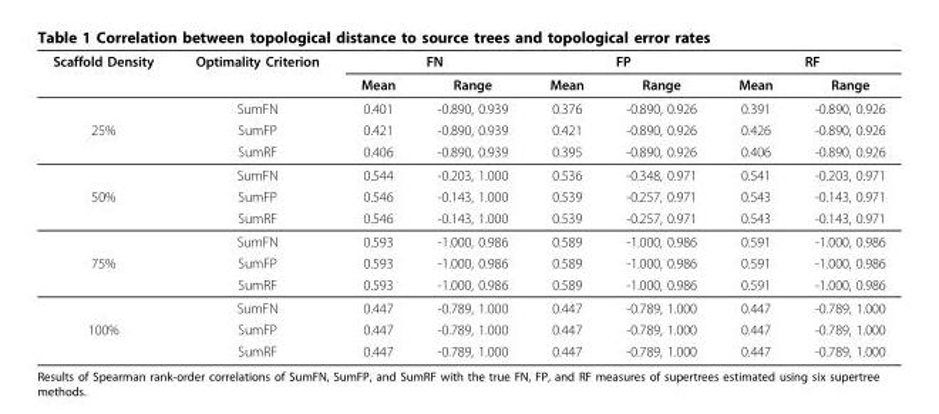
<table><thead><tr><td rowspan="2">Scaffold Density</td><td rowspan="2">Optimality Criterion</td><td colspan="2">FN</td><td colspan="2">FP</td><td colspan="2">RF</td></tr><tr><td>Mean</td><td>Range</td><td>Mean</td><td>Range</td><td>Mean</td><td>Range</td></tr></thead><tbody><tr><td></td><td>SumFN</td><td>0.401</td><td>-0.890, 0.939</td><td>0.376</td><td>-0.890, 0.926</td><td>0.391</td><td>-0.890, 0.926</td></tr><tr><td rowspan="3">25%</td><td>SumFP</td><td>0.421</td><td>-0.890, 0.939</td><td>0.421</td><td>-0.890, 0.926</td><td>0.426</td><td>-0.890, 0.926</td></tr><tr><td>SumRF</td><td>0.406</td><td>-0.890, 0.939</td><td>0.395</td><td>-0.890, 0.926</td><td>0.406</td><td>-0.890, 0.926</td></tr><tr><td>SumFN</td><td>0.544</td><td>-0.203, 1.000</td><td>0.536</td><td>-0.348, 0.971</td><td>0.541</td><td>-0.203, 0.971</td></tr><tr><td rowspan="3">50%</td><td>SumFP</td><td>0.546</td><td>-0.143, 1.000</td><td>0.539</td><td>-0.257, 0.971</td><td>0.543</td><td>-0.143, 0.971</td></tr><tr><td>SumRF</td><td>0.546</td><td>-0.143, 1.000</td><td>0.539</td><td>-0.257, 0.971</td><td>0.543</td><td>-0.143, 0.971</td></tr><tr><td>SumFN</td><td>0.593</td><td>-1.000, 0.986</td><td>0.589</td><td>-1.000, 0.986</td><td>0.591</td><td>-1.000, 0.986</td></tr><tr><td rowspan="3">75%</td><td>SumFP</td><td>0.593</td><td>-1.000, 0.986</td><td>0.589</td><td>-1.000, 0.986</td><td>0.591</td><td>-1.000, 0.986</td></tr><tr><td>SumRF</td><td>0.593</td><td>-1.000, 0.986</td><td>0.589</td><td>-1.000, 0.986</td><td>0.591</td><td>-1.000, 0.986</td></tr><tr><td>SumFN</td><td>0.447</td><td>-0.789, 1.000</td><td>0.447</td><td>-0.789, 1.000</td><td>0.447</td><td>-0.789, 1.000</td></tr><tr><td rowspan="2">100%</td><td>SumFP</td><td>0.447</td><td>-0.789, 1.000</td><td>0.447</td><td>-0.789, 1.000</td><td>0.447</td><td>-0.789, 1.000</td></tr><tr><td>SumRF</td><td>0.447</td><td>-0.789, 1.000</td><td>0.447</td><td>-0.789, 1.000</td><td>0.447</td><td>-0.789, 1.000</td></tr></tbody></table>